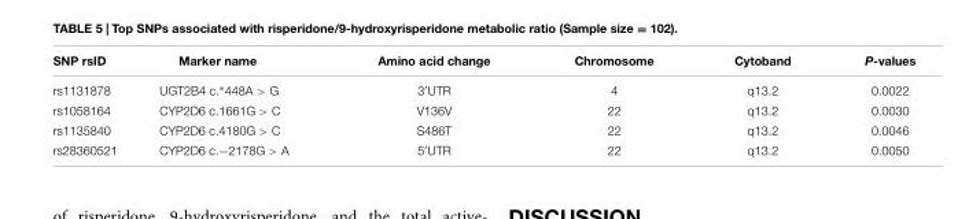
<table><thead><tr><td>SNP rsID</td><td>Marker name</td><td>Amino acid change</td><td>Chromosome</td><td>Cytoband</td><td>P-values</td></tr></thead><tbody><tr><td>rs1131878</td><td>UGT2B4 c.∗448A &gt; G</td><td>3′UTR</td><td>4</td><td>q13.2</td><td>0.0022</td></tr><tr><td>rs1058164</td><td>CYP2D6 c.1661G &gt; C</td><td>V136V</td><td>22</td><td>q13.2</td><td>0.0030</td></tr><tr><td>rs1135840</td><td>CYP2D6 c.4180G &gt; C</td><td>S486T</td><td>22</td><td>q13.2</td><td>0.0046</td></tr><tr><td>rs28360521</td><td>CYP2D6 c.−2178G &gt; A</td><td>5′UTR</td><td>22</td><td>q13.2</td><td>0.0050</td></tr></tbody></table>